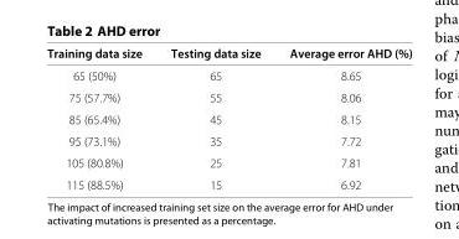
<table><thead><tr><td>Training data size</td><td>Testing data size</td><td>Average error AHD (%)</td></tr></thead><tbody><tr><td>65 (50%)</td><td>65</td><td>8.65</td></tr><tr><td>75 (57.7%)</td><td>55</td><td>8.06</td></tr><tr><td>85 (65.4%)</td><td>45</td><td>8.15</td></tr><tr><td>95 (73.1%)</td><td>35</td><td>7.72</td></tr><tr><td>105 (80.8%)</td><td>25</td><td>7.81</td></tr><tr><td>115 (88.5%)</td><td>15</td><td>6.92</td></tr></tbody></table>